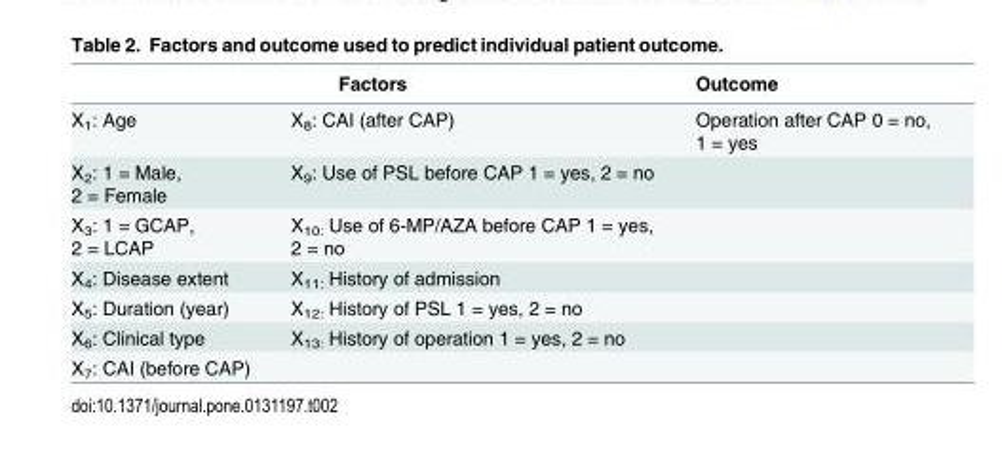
<table><thead><tr><td colspan="2">Factors</td><td rowspan="2">Outcome Operation after CAP 0 = no, 1 = yes</td></tr><tr><td>X<sub>1</sub>: Age</td><td>X<sub>8</sub>: CAI (after CAP)</td></tr></thead><tbody><tr><td>X<sub>2</sub>: 1 = Male, 2 = Female</td><td>X<sub>9</sub>: Use of PSL before CAP 1 = yes, 2 = no</td><td></td></tr><tr><td>X<sub>3</sub>: 1 = GCAP, 2 = LCAP</td><td>X<sub>10:</sub> Use of 6-MP/AZA before CAP 1 = yes, 2 = no</td><td></td></tr><tr><td>X<sub>4</sub>: Disease extent</td><td>X<sub>11:</sub> History of admission</td><td></td></tr><tr><td>X<sub>5</sub>: Duration (year)</td><td>X<sub>12:</sub> History of PSL 1 = yes, 2 = no</td><td></td></tr><tr><td>X<sub>6</sub>: Clinical type</td><td>X<sub>13:</sub> History of operation 1 = yes, 2 = no</td><td></td></tr><tr><td>X<sub>7</sub>: CAI (before CAP)</td><td></td><td></td></tr></tbody></table>